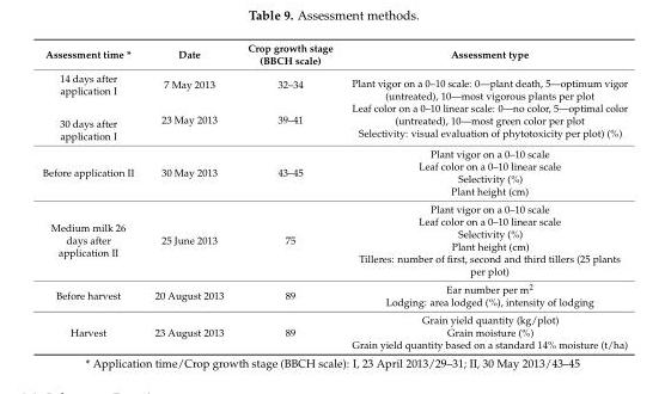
<table><thead><tr><td>Assessment time *</td><td>Date</td><td>Crop growth stage (BBCH scale)</td><td>Assessment type</td></tr></thead><tbody><tr><td>14 days after application I</td><td>7 May 2013</td><td>32–34</td><td rowspan="2">Plant vigor on a 0–10 scale: 0—plant death, 5—optimum vigor (untreated), 10—most vigorous plants per plot Leaf color on a 0–10 linear scale: 0—no color, 5—optimal color (untreated), 10—most green color per plot Selectivity: visual evaluation of phytotoxicity per plot) (%)</td></tr><tr><td>30 days after application I</td><td>23 May 2013</td><td>39–41</td></tr><tr><td>Before application II</td><td>30 May 2013</td><td>43–45</td><td>Plant vigor on a 0–10 scale Leaf color on a 0–10 linear scale Selectivity (%) Plant height (cm)</td></tr><tr><td>Medium milk 26 days after application II</td><td>25 June 2013</td><td>75</td><td>Plant vigor on a 0–10 scale Leaf color on a 0–10 linear scale Selectivity (%) Plant height (cm) Tilleres: number of first, second and third tillers (25 plants per plot)</td></tr><tr><td>Before harvest</td><td>20 August 2013</td><td>89</td><td>Ear number per m<sup>2</sup> Lodging: area lodged (%), intensity of lodging</td></tr><tr><td>Harvest</td><td>23 August 2013</td><td>89</td><td>Grain yield quantity (kg/plot) Grain moisture (%) Grain yield quantity based on a standard 14% moisture (t/ha)</td></tr></tbody></table>